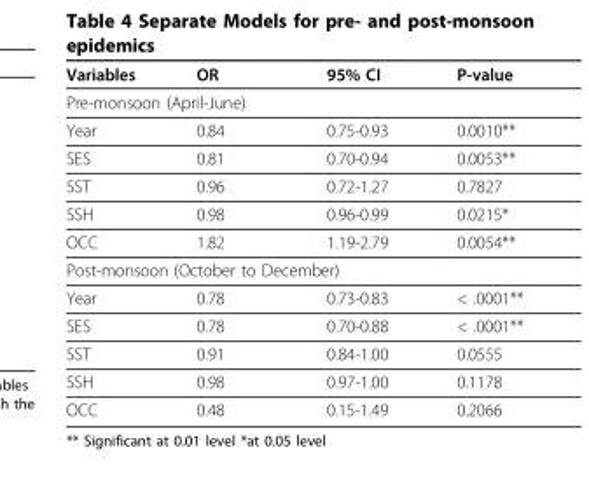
<table><thead><tr><td>Variables</td><td>OR</td><td>95% CI</td><td>P-value</td></tr></thead><tbody><tr><td colspan="4">Pre-monsoon (April-June)</td></tr><tr><td>Year</td><td>0.84</td><td>0.75-0.93</td><td>0.0010**</td></tr><tr><td>SES</td><td>0.81</td><td>0.70-0.94</td><td>0.0053**</td></tr><tr><td>SST</td><td>0.96</td><td>0.72-1.27</td><td>0.7827</td></tr><tr><td>SSH</td><td>0.98</td><td>0.96-0.99</td><td>0.0215*</td></tr><tr><td>OCC</td><td>1.82</td><td>1.19-2.79</td><td>0.0054**</td></tr><tr><td colspan="4">Post-monsoon (October to December)</td></tr><tr><td>Year</td><td>0.78</td><td>0.73-0.83</td><td>&lt; .0001**</td></tr><tr><td>SES</td><td>0.78</td><td>0.70-0.88</td><td>&lt; .0001**</td></tr><tr><td>SST</td><td>0.91</td><td>0.84-1.00</td><td>0.0555</td></tr><tr><td>SSH</td><td>0.98</td><td>0.97-1.00</td><td>0.1178</td></tr><tr><td>OCC</td><td>0.48</td><td>0.15-1.49</td><td>0.2066</td></tr></tbody></table>